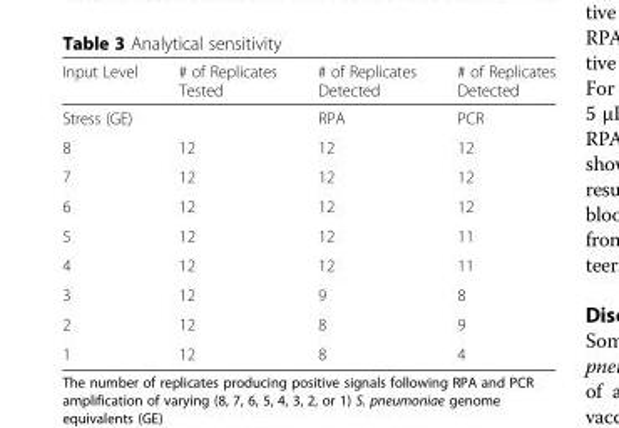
<table><thead><tr><td>Input Level</td><td># of Replicates Tested</td><td># of Replicates Detected</td><td># of Replicates Detected</td></tr></thead><tbody><tr><td>Stress (GE)</td><td></td><td>RPA</td><td>PCR</td></tr><tr><td>8</td><td>12</td><td>12</td><td>12</td></tr><tr><td>7</td><td>12</td><td>12</td><td>12</td></tr><tr><td>6</td><td>12</td><td>12</td><td>12</td></tr><tr><td>5</td><td>12</td><td>12</td><td>11</td></tr><tr><td>4</td><td>12</td><td>12</td><td>11</td></tr><tr><td>3</td><td>12</td><td>9</td><td>8</td></tr><tr><td>2</td><td>12</td><td>8</td><td>9</td></tr><tr><td>1</td><td>12</td><td>8</td><td>4</td></tr></tbody></table>